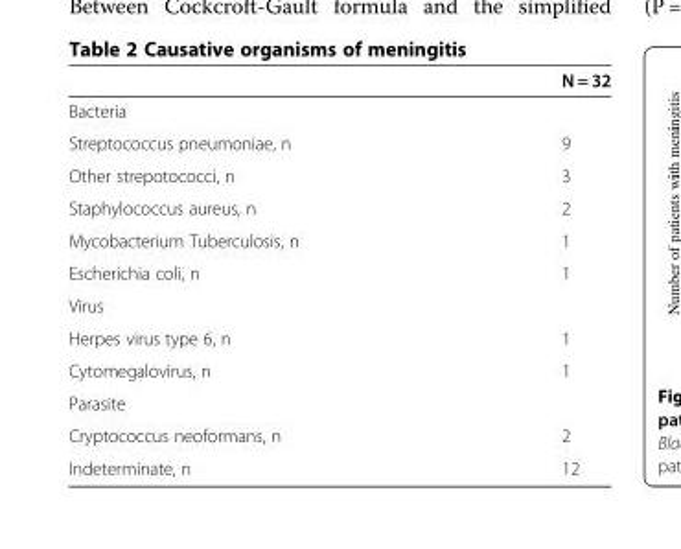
<table><thead><tr><td></td><td>N = 32</td></tr></thead><tbody><tr><td colspan="2">Bacteria</td></tr><tr><td>Streptococcus pneumoniae, n</td><td>9</td></tr><tr><td>Other strepotococci, n</td><td>3</td></tr><tr><td>Staphylococcus aureus, n</td><td>2</td></tr><tr><td>Mycobacterium Tuberculosis, n</td><td>1</td></tr><tr><td>Escherichia coli, n</td><td>1</td></tr><tr><td colspan="2">Virus</td></tr><tr><td>Herpes virus type 6, n</td><td>1</td></tr><tr><td>Cytomegalovirus, n</td><td>1</td></tr><tr><td colspan="2">Parasite</td></tr><tr><td>Cryptococcus neoformans, n</td><td>2</td></tr><tr><td>Indeterminate, n</td><td>12</td></tr></tbody></table>